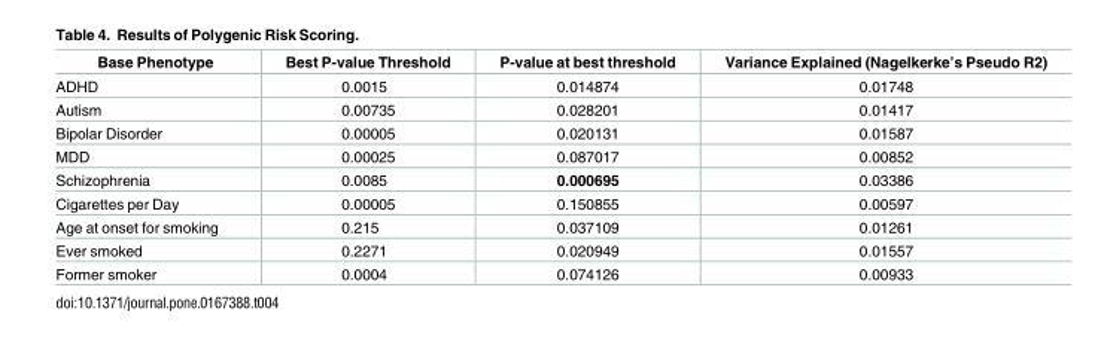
<table><thead><tr><td>Base Phenotype</td><td>Best P-value Threshold</td><td>P-value at best threshold</td><td>Variance Explained (Nagelkerke’s Pseudo R2)</td></tr></thead><tbody><tr><td>ADHD</td><td>0.0015</td><td>0.014874</td><td>0.01748</td></tr><tr><td>Autism</td><td>0.00735</td><td>0.028201</td><td>0.01417</td></tr><tr><td>Bipolar Disorder</td><td>0.00005</td><td>0.020131</td><td>0.01587</td></tr><tr><td>MDD</td><td>0.00025</td><td>0.087017</td><td>0.00852</td></tr><tr><td>Schizophrenia</td><td>0.0085</td><td>0.000695</td><td>0.03386</td></tr><tr><td>Cigarettes per Day</td><td>0.00005</td><td>0.150855</td><td>0.00597</td></tr><tr><td>Age at onset for smoking</td><td>0.215</td><td>0.037109</td><td>0.01261</td></tr><tr><td>Ever smoked</td><td>0.2271</td><td>0.020949</td><td>0.01557</td></tr><tr><td>Former smoker</td><td>0.0004</td><td>0.074126</td><td>0.00933</td></tr></tbody></table>